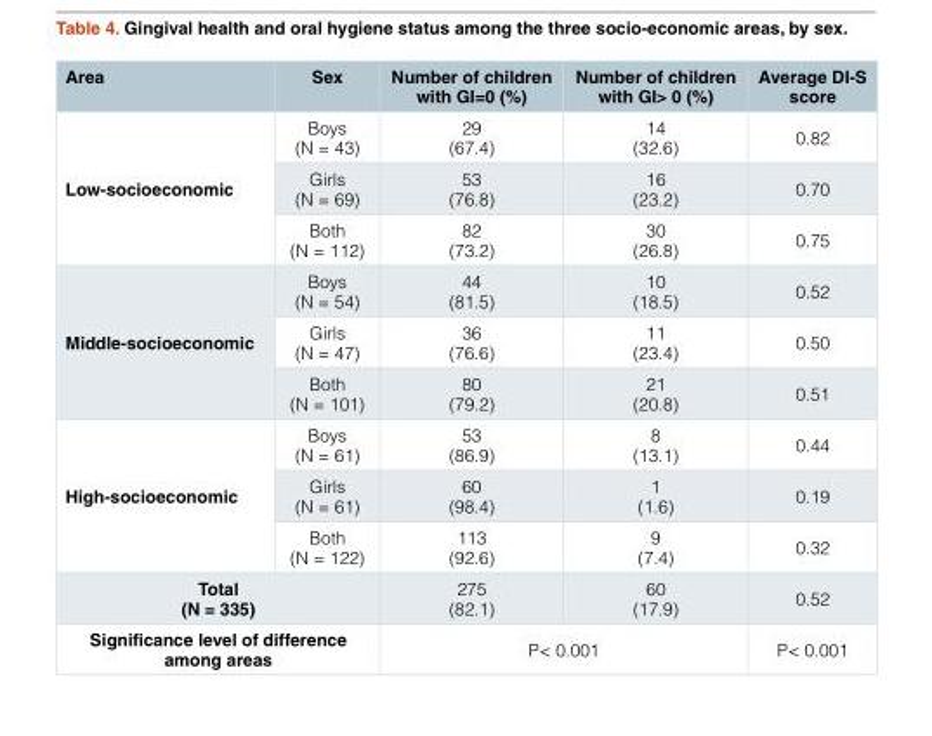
<table><thead><tr><td>Area</td><td>Sex</td><td>Number of children with GI=0 (%)</td><td>Number of children with GI&gt; 0 (%)</td><td>Average DI-S score</td></tr></thead><tbody><tr><td rowspan="3">Low-socioeconomic</td><td>Boys (N = 43)</td><td>29 (67.4)</td><td>14 (32.6)</td><td>0.82</td></tr><tr><td>Girls (N = 69)</td><td>53 (76.8)</td><td>16 (23.2)</td><td>0.70</td></tr><tr><td>Both (N = 112)</td><td>82 (73.2)</td><td>30 (26.8)</td><td>0.75</td></tr><tr><td rowspan="3">Middle-socioeconomic</td><td>Boys (N = 54)</td><td>44 (81.5)</td><td>10 (18.5)</td><td>0.52</td></tr><tr><td>Girls (N = 47)</td><td>36 (76.6)</td><td>11 (23.4)</td><td>0.50</td></tr><tr><td>Both (N = 101)</td><td>80 (79.2)</td><td>21 (20.8)</td><td>0.51</td></tr><tr><td rowspan="3">High-socioeconomic</td><td>Boys (N = 61)</td><td>53 (86.9)</td><td>8 (13.1)</td><td>0.44</td></tr><tr><td>Girls (N = 61)</td><td>60 (98.4)</td><td>1 (1.6)</td><td>0.19</td></tr><tr><td>Both (N = 122)</td><td>113 (92.6)</td><td>9 (7.4)</td><td>0.32</td></tr><tr><td colspan="2">Total (N = 335)</td><td>275 (82.1)</td><td>60 (17.9)</td><td>0.52</td></tr><tr><td colspan="2">Significance level of difference among areas</td><td colspan="2">P&lt; 0.001</td><td>P&lt; 0.001</td></tr></tbody></table>